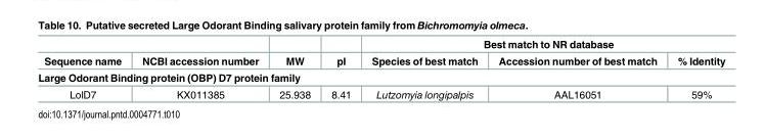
<table><thead><tr><td rowspan="2">Sequence name</td><td rowspan="2">NCBI accession number</td><td rowspan="2">MW</td><td rowspan="2">pI</td><td colspan="3">Best match to NR database</td></tr><tr><td>Species of best match</td><td>Accession number of best match</td><td>% Identity</td></tr><tr><td colspan="7">Large Odorant Binding protein (OBP) D7 protein family</td></tr></thead><tbody><tr><td>LolD7</td><td>KX011385</td><td>25.938</td><td>8.41</td><td>Lutzomyia longipalpis</td><td>AAL16051</td><td>59%</td></tr></tbody></table>